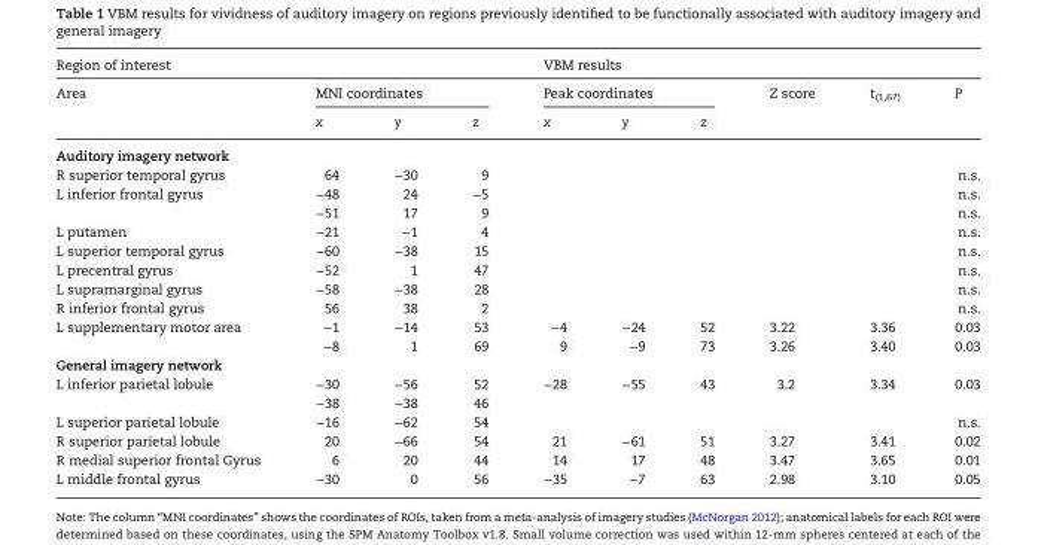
<table><thead><tr><td rowspan="3">Region of interest Area</td><td colspan="9">VBM results</td></tr><tr><td colspan="3">MNI coordinates</td><td colspan="3">Peak coordinates</td><td rowspan="2">Z score</td><td rowspan="2">t<sub>(1,67)</sub></td><td rowspan="2">P</td></tr><tr><td>x</td><td>y</td><td>z</td><td>x</td><td>y</td><td>z</td></tr></thead><tbody><tr><td colspan="10">Auditory imagery network</td></tr><tr><td>R superior temporal gyrus</td><td>64</td><td>−30</td><td>9</td><td></td><td></td><td></td><td></td><td></td><td>n.s.</td></tr><tr><td rowspan="2">L inferior frontal gyrus</td><td>−48</td><td>24</td><td>−5</td><td></td><td></td><td></td><td></td><td></td><td>n.s.</td></tr><tr><td>−51</td><td>17</td><td>9</td><td></td><td></td><td></td><td></td><td></td><td>n.s.</td></tr><tr><td>L putamen</td><td>−21</td><td>−1</td><td>4</td><td></td><td></td><td></td><td></td><td></td><td>n.s.</td></tr><tr><td>L superior temporal gyrus</td><td>−60</td><td>−38</td><td>15</td><td></td><td></td><td></td><td></td><td></td><td>n.s.</td></tr><tr><td>L precentral gyrus</td><td>−52</td><td>1</td><td>47</td><td></td><td></td><td></td><td></td><td></td><td>n.s.</td></tr><tr><td>L supramarginal gyrus</td><td>−58</td><td>−38</td><td>28</td><td></td><td></td><td></td><td></td><td></td><td>n.s.</td></tr><tr><td>R inferior frontal gyrus</td><td>56</td><td>38</td><td>2</td><td></td><td></td><td></td><td></td><td></td><td>n.s.</td></tr><tr><td rowspan="2">L supplementary motor area</td><td>−1</td><td>−14</td><td>53</td><td>−4</td><td>−24</td><td>52</td><td>3.22</td><td>3.36</td><td>0.03</td></tr><tr><td>−8</td><td>1</td><td>69</td><td>9</td><td>−9</td><td>73</td><td>3.26</td><td>3.40</td><td>0.03</td></tr><tr><td colspan="10">General imagery network</td></tr><tr><td rowspan="2">L inferior parietal lobule</td><td>−30</td><td>−56</td><td>52</td><td>−28</td><td>−55</td><td>43</td><td>3.2</td><td>3.34</td><td>0.03</td></tr><tr><td>−38</td><td>−38</td><td>46</td><td></td><td></td><td></td><td></td><td></td><td></td></tr><tr><td>L superior parietal lobule</td><td>−16</td><td>−62</td><td>54</td><td></td><td></td><td></td><td></td><td></td><td>n.s.</td></tr><tr><td>R superior parietal lobule</td><td>20</td><td>−66</td><td>54</td><td>21</td><td>−61</td><td>51</td><td>3.27</td><td>3.41</td><td>0.02</td></tr><tr><td>R medial superior frontal Gyrus</td><td>6</td><td>20</td><td>44</td><td>14</td><td>17</td><td>48</td><td>3.47</td><td>3.65</td><td>0.01</td></tr><tr><td>L middle frontal gyrus</td><td>−30</td><td>0</td><td>56</td><td>−35</td><td>−7</td><td>63</td><td>2.98</td><td>3.10</td><td>0.05</td></tr></tbody></table>